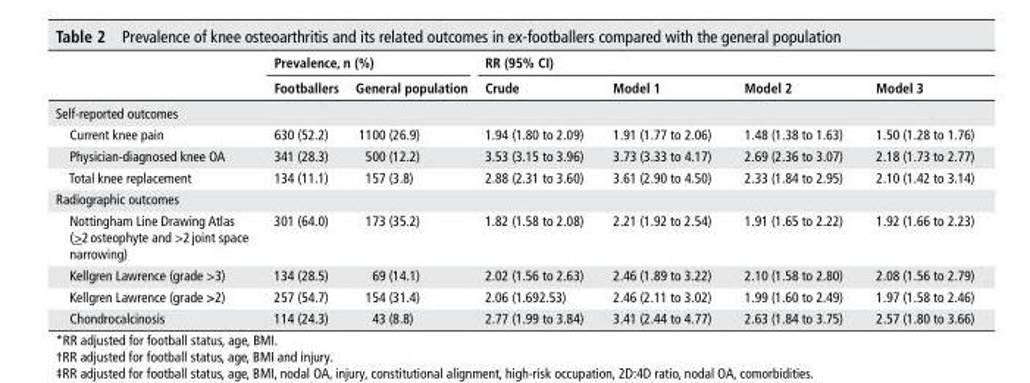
<table><thead><tr><td rowspan="2"></td><td colspan="2">Prevalence, n (%)</td><td colspan="4">rr (95% CI)</td></tr><tr><td>Footballers</td><td>General population</td><td>Crude</td><td>Model 1</td><td>Model 2</td><td>Model 3</td></tr></thead><tbody><tr><td colspan="7">Self-reported outcomes</td></tr><tr><td>Current knee pain</td><td>630 (52.2)</td><td>1100 (26.9)</td><td>1.94 (1.80 to 2.09)</td><td>1.91 (1.77 to 2.06)</td><td>1.48 (1.38 to 1.63)</td><td>1.50 (1.28 to 1.76)</td></tr><tr><td>Physician-diagnosed knee OA</td><td>341 (28.3)</td><td>500 (12.2)</td><td>3.53 (3.15 to 3.96)</td><td>3.73 (3.33 to 4.17)</td><td>2.69 (2.36 to 3.07)</td><td>2.18 (1.73 to 2.77)</td></tr><tr><td>Total knee replacement</td><td>134 (11.1)</td><td>157 (3.8)</td><td>2.88 (2.31 to 3.60)</td><td>3.61 (2.90 to 4.50)</td><td>2.33 (1.84 to 2.95)</td><td>2.10 (1.42 to 3.14)</td></tr><tr><td colspan="7">Radiographic outcomes</td></tr><tr><td>Nottingham Line Drawing Atlas (&gt;2 osteophyte and &gt;2 joint space narrowing)</td><td>301 (64.0)</td><td>173 (35.2)</td><td>1.82 (1.58 to 2.08)</td><td>2.21 (1.92 to 2.54)</td><td>1.91 (1.65 to 2.22)</td><td>1.92 (1.66 to 2.23)</td></tr><tr><td>Kellgren Lawrence (grade &gt;3)</td><td>134 (28.5)</td><td>69 (14.1)</td><td>2.02 (1.56 to 2.63)</td><td>2.46 (1.89 to 3.22)</td><td>2.10 (1.58 to 2.80)</td><td>2.08 (1.56 to 2.79)</td></tr><tr><td>Kellgren Lawrence (grade &gt;2)</td><td>257 (54.7)</td><td>154 (31.4)</td><td>2.06 (1.692.53)</td><td>2.46 (2.11 to 3.02)</td><td>1.99 (1.60 to 2.49)</td><td>1.97 (1.58 to 2.46)</td></tr><tr><td>Chondrocalcinosis</td><td>114 (24.3)</td><td>43 (8.8)</td><td>2.77 (1.99 to 3.84)</td><td>3.41 (2.44 to 4.77)</td><td>2.63 (1.84 to 3.75)</td><td>2.57 (1.80 to 3.66)</td></tr></tbody></table>